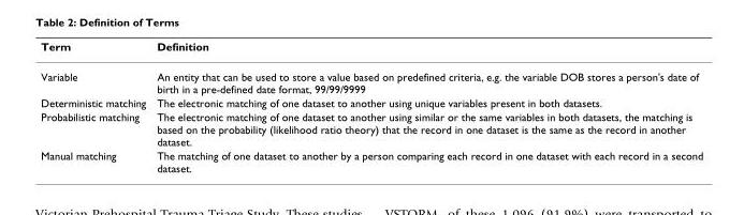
<table><thead><tr><td>Term</td><td>Definition</td></tr></thead><tbody><tr><td>Variable</td><td>An entity that can be used to store a value based on predefined criteria, e.g. the variable DOB stores a person&#x27;s date of birth in a pre-defined date format, 99/99/9999</td></tr><tr><td>Deterministic matching</td><td>The electronic matching of one dataset to another using unique variables present in both datasets.</td></tr><tr><td>Probabilistic matching</td><td>The electronic matching of one dataset to another using similar or the same variables in both datasets, the matching is based on the probability (likelihood ratio theory) that the record in one dataset is the same as the record in another dataset.</td></tr><tr><td>Manual matching</td><td>The matching of one dataset to another by a person comparing each record in one dataset with each record in a second dataset.</td></tr></tbody></table>